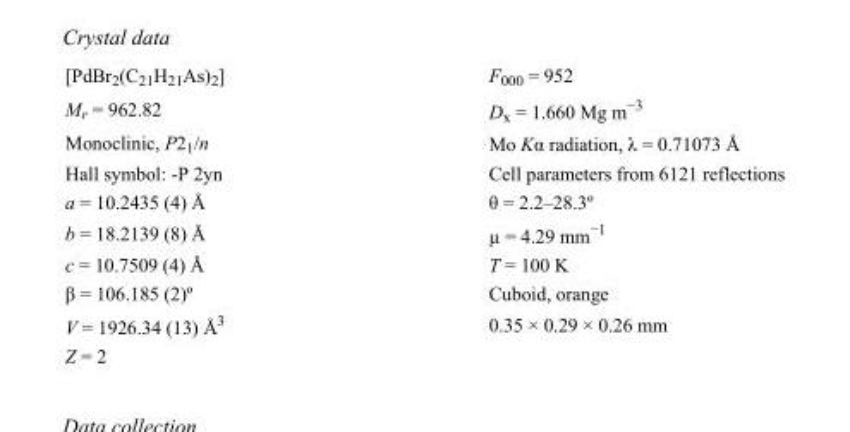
<table><tbody><tr><td>[PdBr<sub>2</sub>(C<sub>21</sub>H<sub>21</sub>As)<sub>2</sub>]</td><td>F000 = 952</td></tr><tr><td>M<sub>r</sub> = 962.82</td><td>D<sub>x</sub> = 1.660 Mg m<sup>−3</sup></td></tr><tr><td>Monoclinic, P2<sub>1</sub>/n</td><td>Mo Kα radiation, λ = 0.71073 Å</td></tr><tr><td>Hall symbol: -P 2yn</td><td>Cell parameters from 6121 reflections</td></tr><tr><td>a = 10.2435 (4) Å</td><td>θ = 2.2–28.3º</td></tr><tr><td>b = 18.2139 (8) Å</td><td>µ = 4.29 mm<sup>−1</sup></td></tr><tr><td>c = 10.7509 (4) Å</td><td>T = 100 K</td></tr><tr><td>β = 106.185 (2)º</td><td>Cuboid, orange</td></tr><tr><td>V = 1926.34 (13) Å<sup>3</sup></td><td>0.35 × 0.29 × 0.26 mm</td></tr><tr><td>Z = 2</td><td></td></tr></tbody></table>